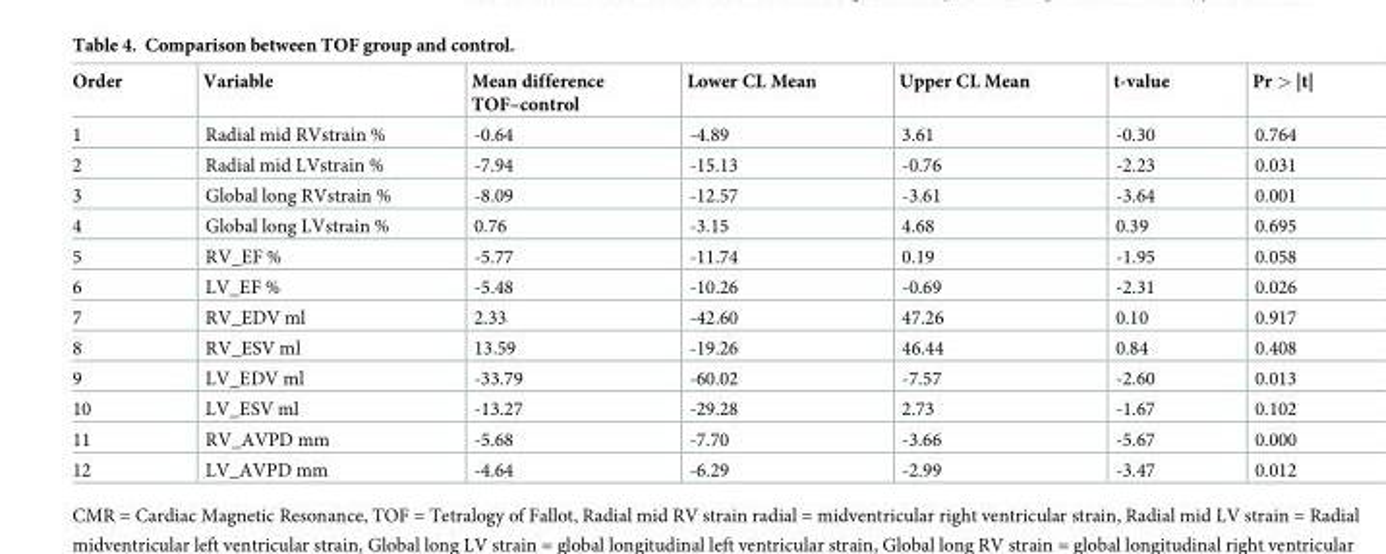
<table><thead><tr><td>Order</td><td>Variable</td><td>Mean difference TOF–control</td><td>Lower CL Mean</td><td>Upper CL Mean</td><td>t-value</td><td>Pr &gt; |t|</td></tr></thead><tbody><tr><td>1</td><td>Radial mid RVstrain %</td><td>-0.64</td><td>-4.89</td><td>3.61</td><td>-0.30</td><td>0.764</td></tr><tr><td>2</td><td>Radial mid LVstrain %</td><td>-7.94</td><td>-15.13</td><td>-0.76</td><td>-2.23</td><td>0.031</td></tr><tr><td>3</td><td>Global long RVstrain %</td><td>-8.09</td><td>-12.57</td><td>-3.61</td><td>-3.64</td><td>0.001</td></tr><tr><td>4</td><td>Global long LVstrain %</td><td>0.76</td><td>-3.15</td><td>4.68</td><td>0.39</td><td>0.695</td></tr><tr><td>5</td><td>RV_EF %</td><td>-5.77</td><td>-11.74</td><td>0.19</td><td>-1.95</td><td>0.058</td></tr><tr><td>6</td><td>LV_EF %</td><td>-5.48</td><td>-10.26</td><td>-0.69</td><td>-2.31</td><td>0.026</td></tr><tr><td>7</td><td>RV_EDV ml</td><td>2.33</td><td>-42.60</td><td>47.26</td><td>0.10</td><td>0.917</td></tr><tr><td>8</td><td>RV_ESV ml</td><td>13.59</td><td>-19.26</td><td>46.44</td><td>0.84</td><td>0.408</td></tr><tr><td>9</td><td>LV_EDV ml</td><td>-33.79</td><td>-60.02</td><td>-7.57</td><td>-2.60</td><td>0.013</td></tr><tr><td>10</td><td>LV_ESV ml</td><td>-13.27</td><td>-29.28</td><td>2.73</td><td>-1.67</td><td>0.102</td></tr><tr><td>11</td><td>RV_AVPD mm</td><td>-5.68</td><td>-7.70</td><td>-3.66</td><td>-5.67</td><td>0.000</td></tr><tr><td>12</td><td>LV_AVPD mm</td><td>-4.64</td><td>-6.29</td><td>-2.99</td><td>-3.47</td><td>0.012</td></tr></tbody></table>